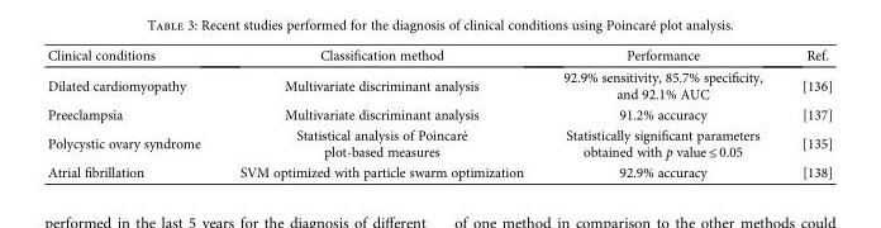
<table><thead><tr><td>Clinical conditions</td><td>Classification method</td><td>Performance</td><td>Ref.</td></tr></thead><tbody><tr><td>Dilated cardiomyopathy</td><td>Multivariate discriminant analysis</td><td>92.9% sensitivity, 85.7% specificity, and 92.1% AUC</td><td>[136]</td></tr><tr><td>Preeclampsia</td><td>Multivariate discriminant analysis</td><td>91.2% accuracy</td><td>[137]</td></tr><tr><td>Polycystic ovary syndrome</td><td>Statistical analysis of Poincaré plot-based measures</td><td>Statistically significant parameters obtained with p value ≤ 0.05</td><td>[135]</td></tr><tr><td>Atrial fibrillation</td><td>SVM optimized with particle swarm optimization</td><td>92.9% accuracy</td><td>[138]</td></tr></tbody></table>